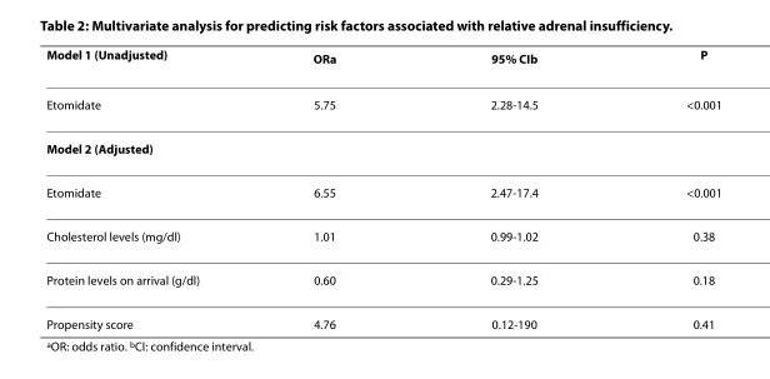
<table><thead><tr><td>Model 1 (Unadjusted)</td><td>OR<sup>a</sup></td><td>95% CI<sup>b</sup></td><td>P</td></tr></thead><tbody><tr><td>Etomidate</td><td>5.75</td><td>2.28-14.5</td><td>&lt;0.001</td></tr><tr><td colspan="4">Model 2 (Adjusted)</td></tr><tr><td>Etomidate</td><td>6.55</td><td>2.47-17.4</td><td>&lt;0.001</td></tr><tr><td>Cholesterol levels (mg/dl)</td><td>1.01</td><td>0.99-1.02</td><td>0.38</td></tr><tr><td>Protein levels on arrival (g/dl)</td><td>0.60</td><td>0.29-1.25</td><td>0.18</td></tr><tr><td>Propensity score</td><td>4.76</td><td>0.12-190</td><td>0.41</td></tr></tbody></table>